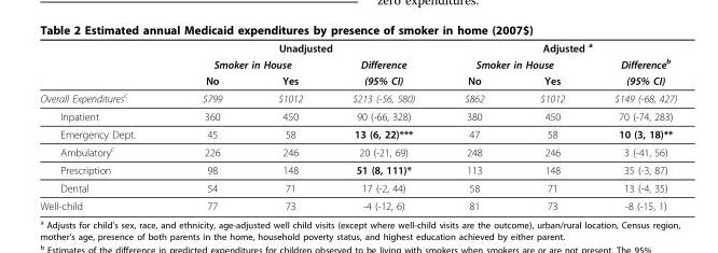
<table><thead><tr><td rowspan="3"></td><td colspan="3">Unadjusted</td><td colspan="3">Adjusted <sup>a</sup></td></tr><tr><td colspan="2">Smoker in House</td><td rowspan="2">Difference (95% CI)</td><td colspan="2">Smoker in House</td><td rowspan="2">Difference<sup>b</sup> (95% CI)</td></tr><tr><td>No</td><td>Yes</td><td>No</td><td>Yes</td></tr></thead><tbody><tr><td>Overall Expenditures<sup>c</sup></td><td>$799</td><td>$1012</td><td>$213 (-56, 580)</td><td>$862</td><td>$1012</td><td>$149 (-68, 427)</td></tr><tr><td>Inpatient</td><td>360</td><td>450</td><td>90 (-66, 328)</td><td>380</td><td>450</td><td>70 (-74, 283)</td></tr><tr><td>Emergency Dept.</td><td>45</td><td>58</td><td>13 (6, 22)***</td><td>47</td><td>58</td><td>10 (3, 18)**</td></tr><tr><td>Ambulatory<sup>c</sup></td><td>226</td><td>246</td><td>20 (-21, 69)</td><td>248</td><td>246</td><td>3 (-41, 56)</td></tr><tr><td>Prescription</td><td>98</td><td>148</td><td>51 (8, 111)*</td><td>113</td><td>148</td><td>35 (-3, 87)</td></tr><tr><td>Dental</td><td>54</td><td>71</td><td>17 (-2, 44)</td><td>58</td><td>71</td><td>13 (-4, 35)</td></tr><tr><td>Well-child</td><td>77</td><td>73</td><td>-4 (-12, 6)</td><td>81</td><td>73</td><td>-8 (-15, 1)</td></tr></tbody></table>